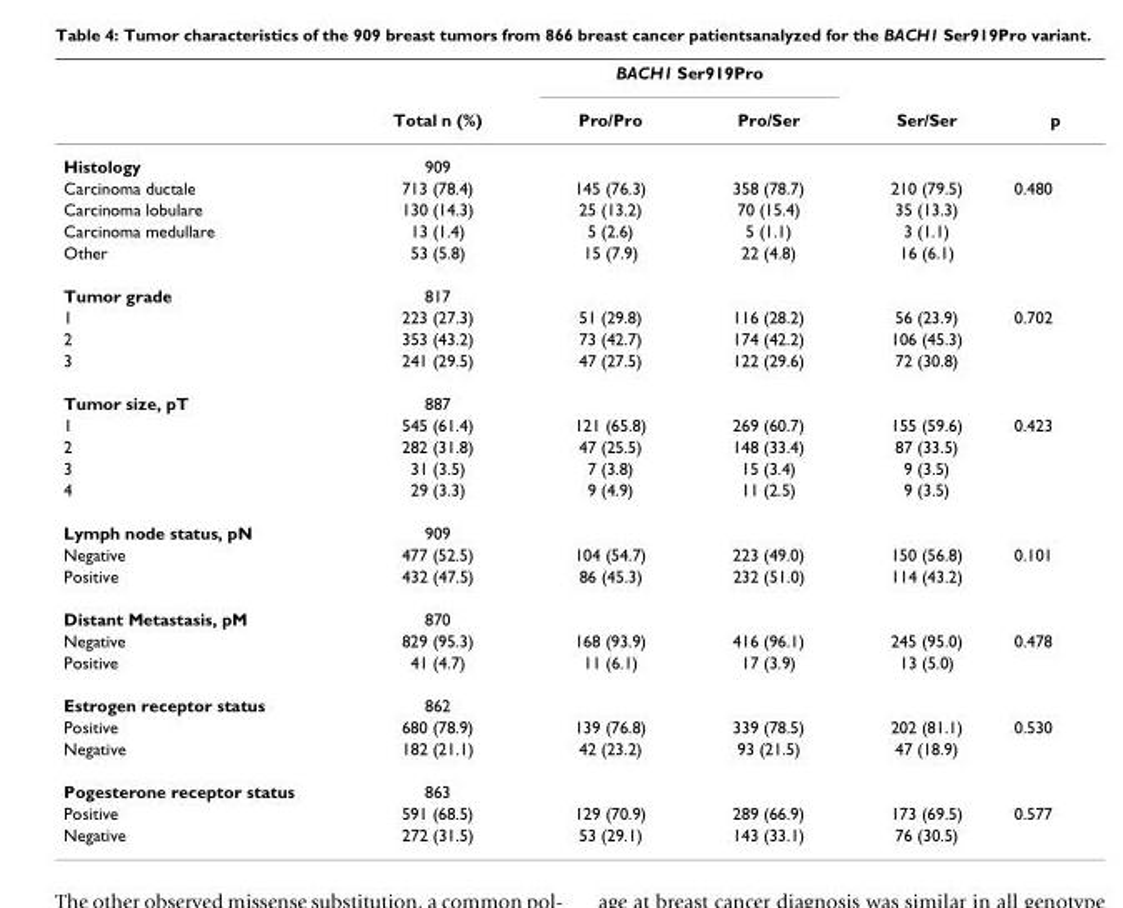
<table><thead><tr><td rowspan="2"></td><td rowspan="2">Total n (%)</td><td colspan="2">BACH1 Ser919Pro</td><td rowspan="2">Ser/Ser</td><td rowspan="2">p</td></tr><tr><td>Pro/Pro</td><td>Pro/Ser</td></tr></thead><tbody><tr><td>Histology</td><td>909</td><td></td><td></td><td></td><td></td></tr><tr><td>Carcinoma ductale</td><td>713 (78.4)</td><td>145 (76.3)</td><td>358 (78.7)</td><td>210 (79.5)</td><td>0.480</td></tr><tr><td>Carcinoma lobulare</td><td>130 (14.3)</td><td>25 (13.2)</td><td>70 (15.4)</td><td>35 (13.3)</td><td></td></tr><tr><td>Carcinoma medullare</td><td>13 (1.4)</td><td>5 (2.6)</td><td>5 (1.1)</td><td>3 (1.1)</td><td></td></tr><tr><td>Other</td><td>53 (5.8)</td><td>15 (7.9)</td><td>22 (4.8)</td><td>16 (6.1)</td><td></td></tr><tr><td>Tumor grade</td><td>817</td><td></td><td></td><td></td><td></td></tr><tr><td>1</td><td>223 (27.3)</td><td>51 (29.8)</td><td>116 (28.2)</td><td>56 (23.9)</td><td>0.702</td></tr><tr><td>2</td><td>353 (43.2)</td><td>73 (42.7)</td><td>174 (42.2)</td><td>106 (45.3)</td><td></td></tr><tr><td>3</td><td>241 (29.5)</td><td>47 (27.5)</td><td>122 (29.6)</td><td>72 (30.8)</td><td></td></tr><tr><td>Tumor size, pT</td><td>887</td><td></td><td></td><td></td><td></td></tr><tr><td>1</td><td>545 (61.4)</td><td>121 (65.8)</td><td>269 (60.7)</td><td>155 (59.6)</td><td>0.423</td></tr><tr><td>2</td><td>282 (31.8)</td><td>47 (25.5)</td><td>148 (33.4)</td><td>87 (33.5)</td><td></td></tr><tr><td>3</td><td>31 (3.5)</td><td>7 (3.8)</td><td>15 (3.4)</td><td>9 (3.5)</td><td></td></tr><tr><td>4</td><td>29 (3.3)</td><td>9 (4.9)</td><td>11 (2.5)</td><td>9 (3.5)</td><td></td></tr><tr><td>Lymph node status, pN</td><td>909</td><td></td><td></td><td></td><td></td></tr><tr><td>Negative</td><td>477 (52.5)</td><td>104 (54.7)</td><td>223 (49.0)</td><td>150 (56.8)</td><td>0.101</td></tr><tr><td>Positive</td><td>432 (47.5)</td><td>86 (45.3)</td><td>232 (51.0)</td><td>114 (43.2)</td><td></td></tr><tr><td>Distant Metastasis, pM</td><td>870</td><td></td><td></td><td></td><td></td></tr><tr><td>Negative</td><td>829 (95.3)</td><td>168 (93.9)</td><td>416 (96.1)</td><td>245 (95.0)</td><td>0.478</td></tr><tr><td>Positive</td><td>41 (4.7)</td><td>11 (6.1)</td><td>17 (3.9)</td><td>13 (5.0)</td><td></td></tr><tr><td>Estrogen receptor status</td><td>862</td><td></td><td></td><td></td><td></td></tr><tr><td>Positive</td><td>680 (78.9)</td><td>139 (76.8)</td><td>339 (78.5)</td><td>202 (81.1)</td><td>0.530</td></tr><tr><td>Negative</td><td>182 (21.1)</td><td>42 (23.2)</td><td>93 (21.5)</td><td>47 (18.9)</td><td></td></tr><tr><td>Pogesterone receptor status</td><td>863</td><td></td><td></td><td></td><td></td></tr><tr><td>Positive</td><td>591 (68.5)</td><td>129 (70.9)</td><td>289 (66.9)</td><td>173 (69.5)</td><td>0.577</td></tr><tr><td>Negative</td><td>272 (31.5)</td><td>53 (29.1)</td><td>143 (33.1)</td><td>76 (30.5)</td><td></td></tr></tbody></table>